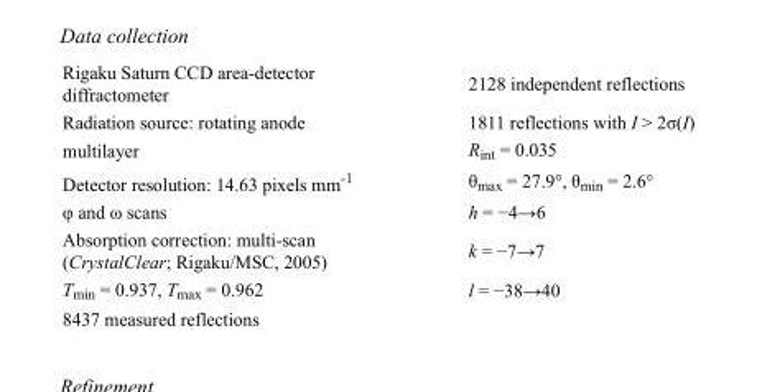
<table><tbody><tr><td>Rigaku Saturn CCD area-detector diffractometer</td><td>2128 independent reflections</td></tr><tr><td>Radiation source: rotating anode</td><td>1811 reflections with I &gt; 2σ(I)</td></tr><tr><td>multilayer</td><td>R<sub>int</sub> = 0.035</td></tr><tr><td>Detector resolution: 14.63 pixels mm<sup>-1</sup></td><td>θ<sub>max</sub> = 27.9°, θ<sub>min</sub> = 2.6°</td></tr><tr><td>φ and ω scans</td><td>h = −4→6</td></tr><tr><td>Absorption correction: multi-scan (CrystalClear; Rigaku/MSC, 2005)</td><td>k = −7→7</td></tr><tr><td>T<sub>min</sub> = 0.937, T<sub>max</sub> = 0.962</td><td>l = −38→40</td></tr><tr><td>8437 measured reflections</td><td></td></tr></tbody></table>